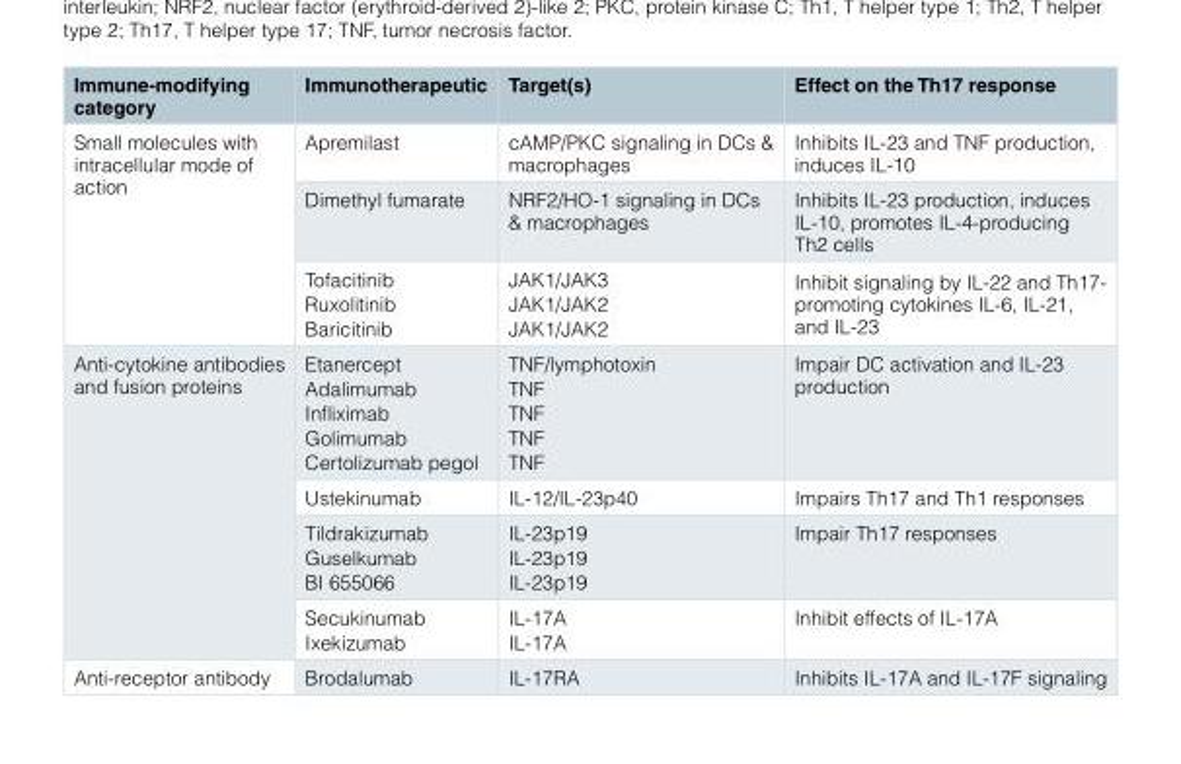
<table><thead><tr><td>Immune-modifying category</td><td>Immunotherapeutic</td><td>Target(s)</td><td>Effect on the Th17 response</td></tr></thead><tbody><tr><td rowspan="3">Small molecules with intracellular mode of action</td><td>Apremilast</td><td>cAMP/PKC signaling in DCs &amp; macrophages</td><td>Inhibits IL-23 and TNF production, induces IL-10</td></tr><tr><td>Dimethyl fumarate</td><td>NRF2/HO-1 signaling in DCs &amp; macrophages</td><td>Inhibits IL-23 production, induces IL-10, promotes IL-4-producing Th2 cells</td></tr><tr><td>Tofacitinib Ruxolitinib Baricitinib</td><td>JAK1/JAK3 JAK1/JAK2 JAK1/JAK2</td><td>Inhibit signaling by IL-22 and Th17- promoting cytokines IL-6, IL-21, and IL-23</td></tr><tr><td rowspan="4">Anti-cytokine antibodies and fusion proteins</td><td>Etanercept Adalimumab Infliximab Golimumab Certolizumab pegol</td><td>TNF/lymphotoxin TNF TNF TNF TNF</td><td>Impair DC activation and IL-23 production</td></tr><tr><td>Ustekinumab</td><td>IL-12/IL-23p40</td><td>Impairs Th17 and Th1 responses</td></tr><tr><td>Tildrakizumab Guselkumab BI 655066</td><td>IL-23p19 IL-23p19 IL-23p19</td><td>Impair Th17 responses</td></tr><tr><td>Secukinumab Ixekizumab</td><td>IL-17A IL-17A</td><td>Inhibit effects of IL-17A</td></tr><tr><td>Anti-receptor antibody</td><td>Brodalumab</td><td>IL-17RA</td><td>Inhibits IL-17A and IL-17F signaling</td></tr></tbody></table>